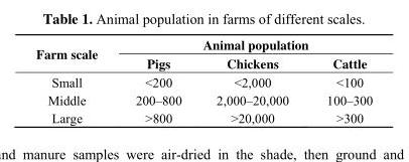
<table><thead><tr><td rowspan="2">Farm scale</td><td colspan="3">Animal population</td></tr><tr><td>Pigs</td><td>Chickens</td><td>Cattle</td></tr></thead><tbody><tr><td>Small</td><td>&lt;200</td><td>&lt;2,000</td><td>&lt;100</td></tr><tr><td>Middle</td><td>200–800</td><td>2,000–20,000</td><td>100–300</td></tr><tr><td>Large</td><td>&gt;800</td><td>&gt;20,000</td><td>&gt;300</td></tr></tbody></table>